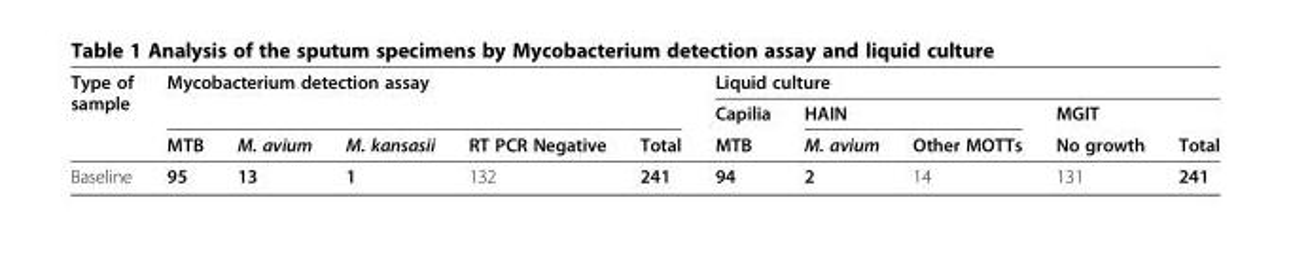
<table><thead><tr><td rowspan="3">Type of sample</td><td rowspan="2" colspan="5">Mycobacterium detection assay</td><td colspan="5">Liquid culture</td></tr><tr><td rowspan="2">Capilia MTB</td><td colspan="2">HAIN</td><td rowspan="2">MGIT No growth</td><td rowspan="2">Total</td></tr><tr><td>MTB</td><td>M. avium</td><td>M. kansasii</td><td>RT PCR Negative</td><td>Total</td><td>M. avium</td><td>Other MOTTs</td></tr></thead><tbody><tr><td>Baseline</td><td>95</td><td>13</td><td>1</td><td>132</td><td>241</td><td>94</td><td>2</td><td>14</td><td>131</td><td>241</td></tr></tbody></table>